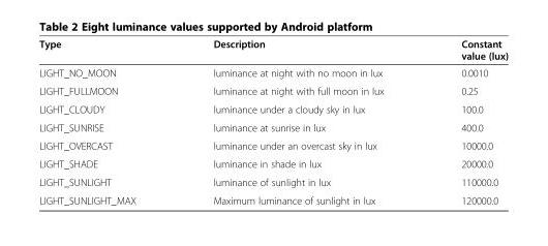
<table><thead><tr><td>Type</td><td>Description</td><td>Constant value (lux)</td></tr></thead><tbody><tr><td>LIGHT_NO_MOON</td><td>luminance at night with no moon in lux</td><td>0.0010</td></tr><tr><td>LIGHT_FULLMOON</td><td>luminance at night with full moon in lux</td><td>0.25</td></tr><tr><td>LIGHT_CLOUDY</td><td>luminance under a cloudy sky in lux</td><td>100.0</td></tr><tr><td>LIGHT_SUNRISE</td><td>luminance at sunrise in lux</td><td>400.0</td></tr><tr><td>LIGHT_OVERCAST</td><td>luminance under an overcast sky in lux</td><td>10000.0</td></tr><tr><td>LIGHT_SHADE</td><td>luminance in shade in lux</td><td>20000.0</td></tr><tr><td>LIGHT_SUNLIGHT</td><td>luminance of sunlight in lux</td><td>110000.0</td></tr><tr><td>LIGHT_SUNLIGHT_MAX</td><td>Maximum luminance of sunlight in lux</td><td>120000.0</td></tr></tbody></table>